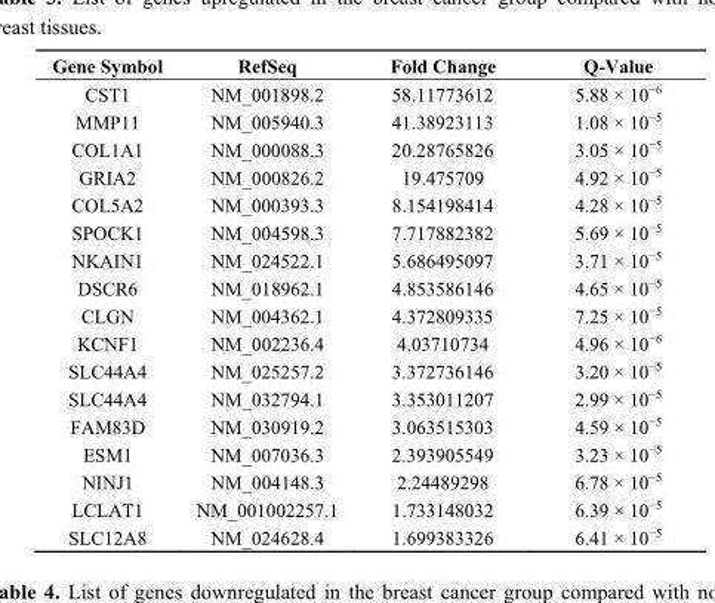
<table><thead><tr><td>Gene Symbol</td><td>RefSeq</td><td>Fold Change</td><td>Q-Value</td></tr></thead><tbody><tr><td>CST1</td><td>NM_001898.2</td><td>58.11773612</td><td>5.88 × 10<sup>−6</sup></td></tr><tr><td>MMP11</td><td>NM_005940.3</td><td>41.38923113</td><td>1.08 × 10<sup>−5</sup></td></tr><tr><td>COL1A1</td><td>NM_000088.3</td><td>20.28765826</td><td>3.05 × 10<sup>−5</sup></td></tr><tr><td>GRIA2</td><td>NM_000826.2</td><td>19.475709</td><td>4.92 × 10<sup>−5</sup></td></tr><tr><td>COL5A2</td><td>NM_000393.3</td><td>8.154198414</td><td>4.28 × 10<sup>−5</sup></td></tr><tr><td>SPOCK1</td><td>NM_004598.3</td><td>7.717882382</td><td>5.69 × 10<sup>−5</sup></td></tr><tr><td>NKAIN1</td><td>NM_024522.1</td><td>5.686495097</td><td>3.71 × 10<sup>−5</sup></td></tr><tr><td>DSCR6</td><td>NM_018962.1</td><td>4.853586146</td><td>4.65 × 10<sup>−5</sup></td></tr><tr><td>CLGN</td><td>NM_004362.1</td><td>4.372809335</td><td>7.25 × 10<sup>−5</sup></td></tr><tr><td>KCNF1</td><td>NM_002236.4</td><td>4.03710734</td><td>4.96 × 10<sup>−6</sup></td></tr><tr><td>SLC44A4</td><td>NM_025257.2</td><td>3.372736146</td><td>3.20 × 10<sup>−5</sup></td></tr><tr><td>SLC44A4</td><td>NM_032794.1</td><td>3.353011207</td><td>2.99 × 10<sup>−5</sup></td></tr><tr><td>FAM83D</td><td>NM_030919.2</td><td>3.063515303</td><td>4.59 × 10<sup>−5</sup></td></tr><tr><td>ESM1</td><td>NM_007036.3</td><td>2.393905549</td><td>3.23 × 10<sup>−5</sup></td></tr><tr><td>NINJ1</td><td>NM_004148.3</td><td>2.24489298</td><td>6.78 × 10<sup>−5</sup></td></tr><tr><td>LCLAT1</td><td>NM_001002257.1</td><td>1.733148032</td><td>6.39 × 10<sup>−5</sup></td></tr><tr><td>SLC12A8</td><td>NM_024628.4</td><td>1.699383326</td><td>6.41 × 10<sup>−5</sup></td></tr></tbody></table>